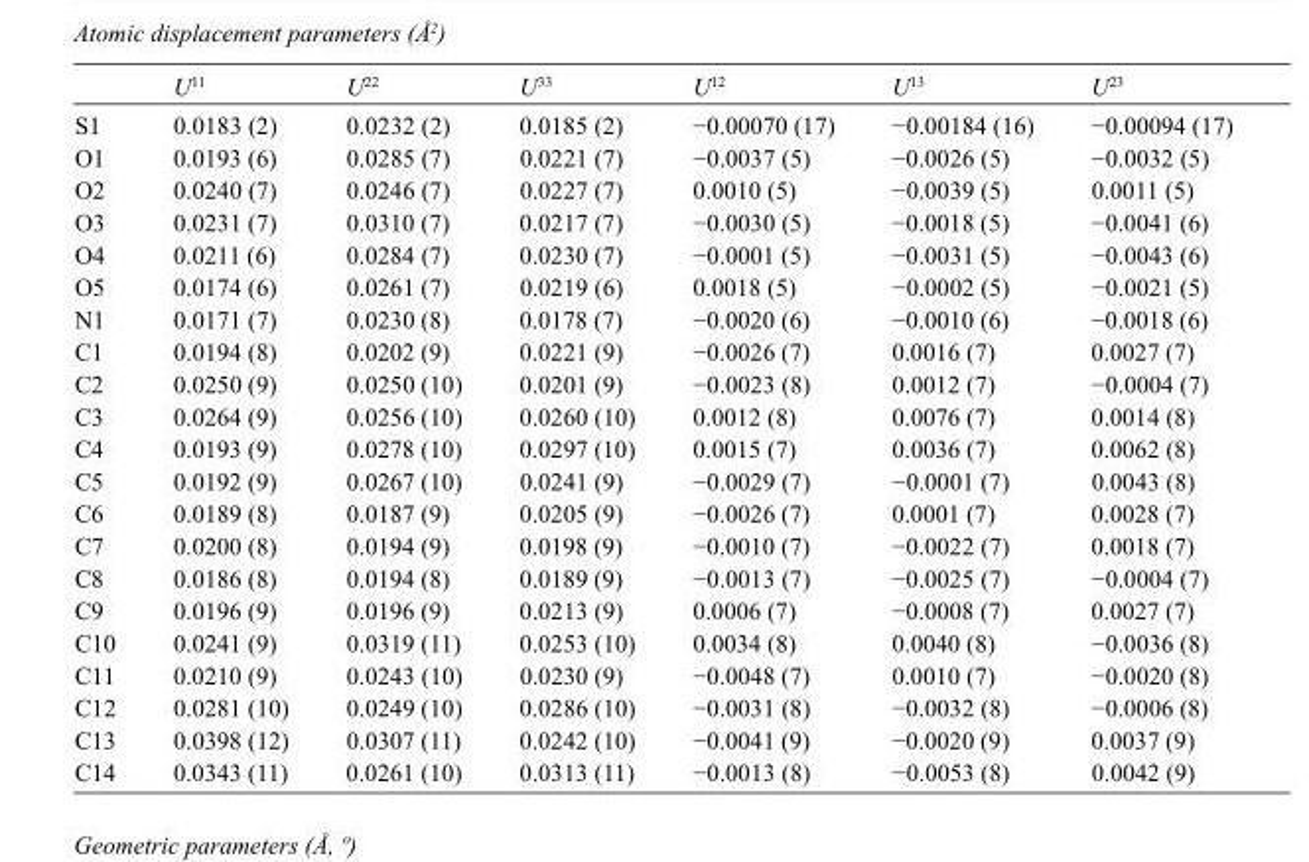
<table><thead><tr><td></td><td>U<sup>11</sup></td><td>U<sup>22</sup></td><td>U<sup>33</sup></td><td>U<sup>12</sup></td><td>U<sup>13</sup></td><td>U<sup>23</sup></td></tr></thead><tbody><tr><td>S1</td><td>0.0183 (2)</td><td>0.0232 (2)</td><td>0.0185 (2)</td><td>−0.00070 (17)</td><td>−0.00184 (16)</td><td>−0.00094 (17)</td></tr><tr><td>O1</td><td>0.0193 (6)</td><td>0.0285 (7)</td><td>0.0221 (7)</td><td>−0.0037 (5)</td><td>−0.0026 (5)</td><td>−0.0032 (5)</td></tr><tr><td>O2</td><td>0.0240 (7)</td><td>0.0246 (7)</td><td>0.0227 (7)</td><td>0.0010 (5)</td><td>−0.0039 (5)</td><td>0.0011 (5)</td></tr><tr><td>O3</td><td>0.0231 (7)</td><td>0.0310 (7)</td><td>0.0217 (7)</td><td>−0.0030 (5)</td><td>−0.0018 (5)</td><td>−0.0041 (6)</td></tr><tr><td>O4</td><td>0.0211 (6)</td><td>0.0284 (7)</td><td>0.0230 (7)</td><td>−0.0001 (5)</td><td>−0.0031 (5)</td><td>−0.0043 (6)</td></tr><tr><td>O5</td><td>0.0174 (6)</td><td>0.0261 (7)</td><td>0.0219 (6)</td><td>0.0018 (5)</td><td>−0.0002 (5)</td><td>−0.0021 (5)</td></tr><tr><td>N1</td><td>0.0171 (7)</td><td>0.0230 (8)</td><td>0.0178 (7)</td><td>−0.0020 (6)</td><td>−0.0010 (6)</td><td>−0.0018 (6)</td></tr><tr><td>C1</td><td>0.0194 (8)</td><td>0.0202 (9)</td><td>0.0221 (9)</td><td>−0.0026 (7)</td><td>0.0016 (7)</td><td>0.0027 (7)</td></tr><tr><td>C2</td><td>0.0250 (9)</td><td>0.0250 (10)</td><td>0.0201 (9)</td><td>−0.0023 (8)</td><td>0.0012 (7)</td><td>−0.0004 (7)</td></tr><tr><td>C3</td><td>0.0264 (9)</td><td>0.0256 (10)</td><td>0.0260 (10)</td><td>0.0012 (8)</td><td>0.0076 (7)</td><td>0.0014 (8)</td></tr><tr><td>C4</td><td>0.0193 (9)</td><td>0.0278 (10)</td><td>0.0297 (10)</td><td>0.0015 (7)</td><td>0.0036 (7)</td><td>0.0062 (8)</td></tr><tr><td>C5</td><td>0.0192 (9)</td><td>0.0267 (10)</td><td>0.0241 (9)</td><td>−0.0029 (7)</td><td>−0.0001 (7)</td><td>0.0043 (8)</td></tr><tr><td>C6</td><td>0.0189 (8)</td><td>0.0187 (9)</td><td>0.0205 (9)</td><td>−0.0026 (7)</td><td>0.0001 (7)</td><td>0.0028 (7)</td></tr><tr><td>C7</td><td>0.0200 (8)</td><td>0.0194 (9)</td><td>0.0198 (9)</td><td>−0.0010 (7)</td><td>−0.0022 (7)</td><td>0.0018 (7)</td></tr><tr><td>C8</td><td>0.0186 (8)</td><td>0.0194 (8)</td><td>0.0189 (9)</td><td>−0.0013 (7)</td><td>−0.0025 (7)</td><td>−0.0004 (7)</td></tr><tr><td>C9</td><td>0.0196 (9)</td><td>0.0196 (9)</td><td>0.0213 (9)</td><td>0.0006 (7)</td><td>−0.0008 (7)</td><td>0.0027 (7)</td></tr><tr><td>C10</td><td>0.0241 (9)</td><td>0.0319 (11)</td><td>0.0253 (10)</td><td>0.0034 (8)</td><td>0.0040 (8)</td><td>−0.0036 (8)</td></tr><tr><td>C11</td><td>0.0210 (9)</td><td>0.0243 (10)</td><td>0.0230 (9)</td><td>−0.0048 (7)</td><td>0.0010 (7)</td><td>−0.0020 (8)</td></tr><tr><td>C12</td><td>0.0281 (10)</td><td>0.0249 (10)</td><td>0.0286 (10)</td><td>−0.0031 (8)</td><td>−0.0032 (8)</td><td>−0.0006 (8)</td></tr><tr><td>C13</td><td>0.0398 (12)</td><td>0.0307 (11)</td><td>0.0242 (10)</td><td>−0.0041 (9)</td><td>−0.0020 (9)</td><td>0.0037 (9)</td></tr><tr><td>C14</td><td>0.0343 (11)</td><td>0.0261 (10)</td><td>0.0313 (11)</td><td>−0.0013 (8)</td><td>−0.0053 (8)</td><td>0.0042 (9)</td></tr></tbody></table>